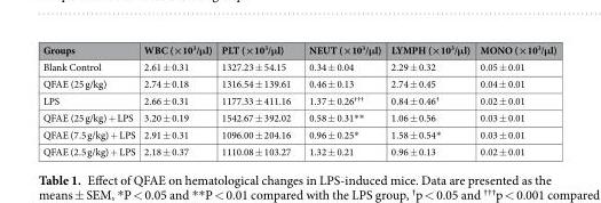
<table><thead><tr><td>Groups</td><td>WBC (×10<sup>3</sup>/μl)</td><td>PLT (×10<sup>3</sup>/μl)</td><td>NEUT (×10<sup>3</sup>/μl)</td><td>LYMPH (×10<sup>3</sup>/μl)</td><td>MONO (×10<sup>3</sup>/μl)</td></tr></thead><tbody><tr><td>Blank Control</td><td>2.61 ± 0.31</td><td>1327.23 ± 54.15</td><td>0.34 ± 0.04</td><td>2.29 ± 0.32</td><td>0.05 ± 0.01</td></tr><tr><td>QFAE (25 g/kg)</td><td>2.74 ± 0.18</td><td>1316.54 ± 139.61</td><td>0.46 ± 0.13</td><td>2.74 ± 0.45</td><td>0.04 ± 0.01</td></tr><tr><td>LPS</td><td>2.66 ± 0.31</td><td>1177.33 ± 411.16</td><td>1.37 ± 0.26<sup>†††</sup></td><td>0.84 ± 0.46<sup>†</sup></td><td>0.02 ± 0.01</td></tr><tr><td>QFAE (25 g/kg) + LPS</td><td>3.20 ± 0.19</td><td>1542.67 ± 392.02</td><td>0.58 ± 0.31**</td><td>1.06 ± 0.56</td><td>0.03 ± 0.01</td></tr><tr><td>QFAE (7.5 g/kg) + LPS</td><td>2.91 ± 0.31</td><td>1096.00 ± 204.16</td><td>0.96 ± 0.25*</td><td>1.58 ± 0.54*</td><td>0.03 ± 0.01</td></tr><tr><td>QFAE (2.5 g/kg) + LPS</td><td>2.18 ± 0.37</td><td>1110.08 ± 103.27</td><td>1.32 ± 0.21</td><td>0.96 ± 0.13</td><td>0.02 ± 0.01</td></tr></tbody></table>